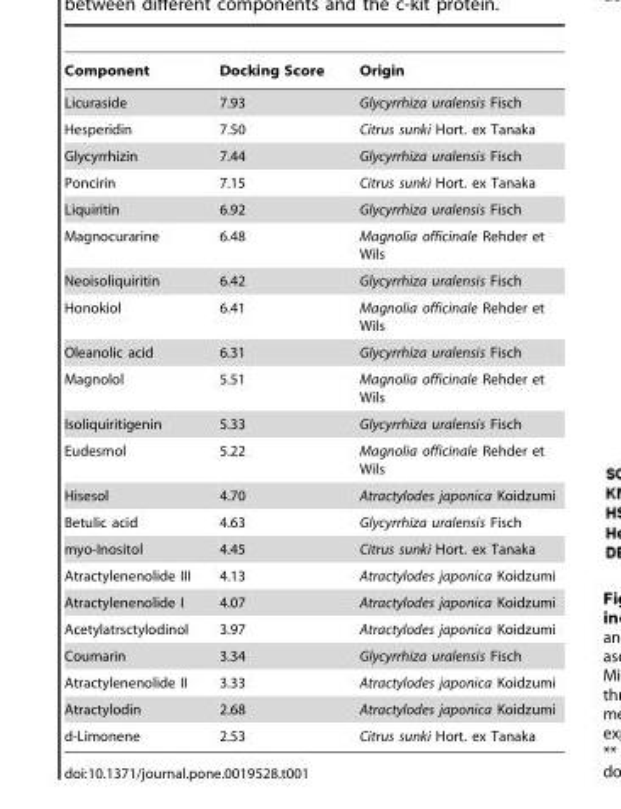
<table><thead><tr><td>Component</td><td>Docking Score</td><td>Origin</td></tr></thead><tbody><tr><td>Licuraside</td><td>7.93</td><td>Glycyrrhiza uralensis Fisch</td></tr><tr><td>Hesperidin</td><td>7.50</td><td>Citrus sunki Hort. ex Tanaka</td></tr><tr><td>Glycyrrhizin</td><td>7.44</td><td>Glycyrrhiza uralensis Fisch</td></tr><tr><td>Poncirin</td><td>7.15</td><td>Citrus sunki Hort. ex Tanaka</td></tr><tr><td>Liquiritin</td><td>6.92</td><td>Glycyrrhiza uralensis Fisch</td></tr><tr><td>Magnocurarine</td><td>6.48</td><td>Magnolia officinale Rehder et Wils</td></tr><tr><td>Neoisoliquiritin</td><td>6.42</td><td>Glycyrrhiza uralensis Fisch</td></tr><tr><td>Honokiol</td><td>6.41</td><td>Magnolia officinale Rehder et Wils</td></tr><tr><td>Oleanolic acid</td><td>6.31</td><td>Glycyrrhiza uralensis Fisch</td></tr><tr><td>Magnolol</td><td>5.51</td><td>Magnolia officinale Rehder et Wils</td></tr><tr><td>Isoliquiritigenin</td><td>5.33</td><td>Glycyrrhiza uralensis Fisch</td></tr><tr><td>Eudesmol</td><td>5.22</td><td>Magnolia officinale Rehder et Wils</td></tr><tr><td>Hisesol</td><td>4.70</td><td>Atractylodes japonica Koidzumi</td></tr><tr><td>Betulic acid</td><td>4.63</td><td>Glycyrrhiza uralensis Fisch</td></tr><tr><td>myo-Inositol</td><td>4.45</td><td>Citrus sunki Hort. ex Tanaka</td></tr><tr><td>Atractylenenolide III</td><td>4.13</td><td>Atractylodes japonica Koidzumi</td></tr><tr><td>Atractylenenolide I</td><td>4.07</td><td>Atractylodes japonica Koidzumi</td></tr><tr><td>Acetylatrsctylodinol</td><td>3.97</td><td>Atractylodes japonica Koidzumi</td></tr><tr><td>Coumarin</td><td>3.34</td><td>Glycyrrhiza uralensis Fisch</td></tr><tr><td>Atractylenenolide II</td><td>3.33</td><td>Atractylodes japonica Koidzumi</td></tr><tr><td>Atractylodin</td><td>2.68</td><td>Atractylodes japonica Koidzumi</td></tr><tr><td>d-Limonene</td><td>2.53</td><td>Citrus sunki Hort. ex Tanaka</td></tr></tbody></table>